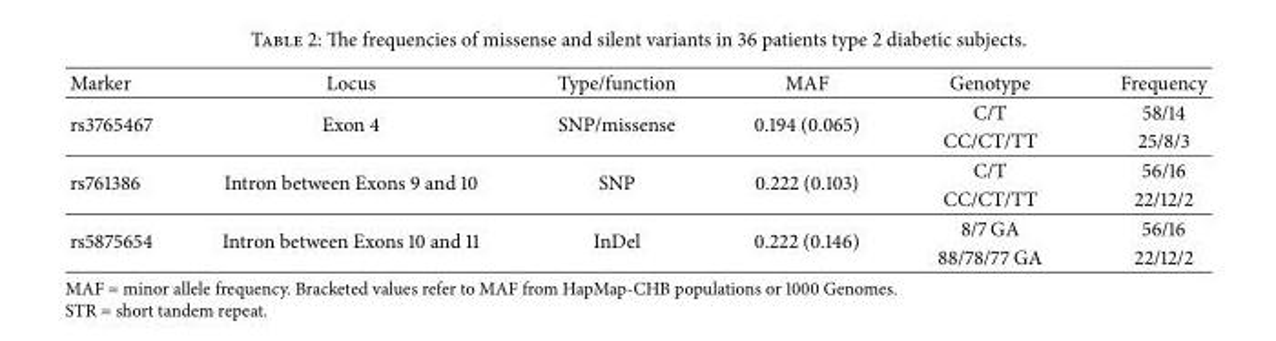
<table><thead><tr><td>Marker</td><td>Locus</td><td>Type/function</td><td>MAF</td><td>Genotype</td><td>Frequency</td></tr></thead><tbody><tr><td rowspan="2">rs3765467</td><td rowspan="2">Exon 4</td><td rowspan="2">SNP/missense</td><td rowspan="2">0.194 (0.065)</td><td>C/T</td><td>58/14</td></tr><tr><td>CC/CT/TT</td><td>25/8/3</td></tr><tr><td rowspan="2">rs761386</td><td rowspan="2">Intron between Exons 9 and 10</td><td rowspan="2">SNP</td><td rowspan="2">0.222 (0.103)</td><td>C/T</td><td>56/16</td></tr><tr><td>CC/CT/TT</td><td>22/12/2</td></tr><tr><td rowspan="2">rs5875654</td><td rowspan="2">Intron between Exons 10 and 11</td><td rowspan="2">InDel</td><td rowspan="2">0.222 (0.146)</td><td>8/7 GA</td><td>56/16</td></tr><tr><td>88/78/77 GA</td><td>22/12/2</td></tr></tbody></table>